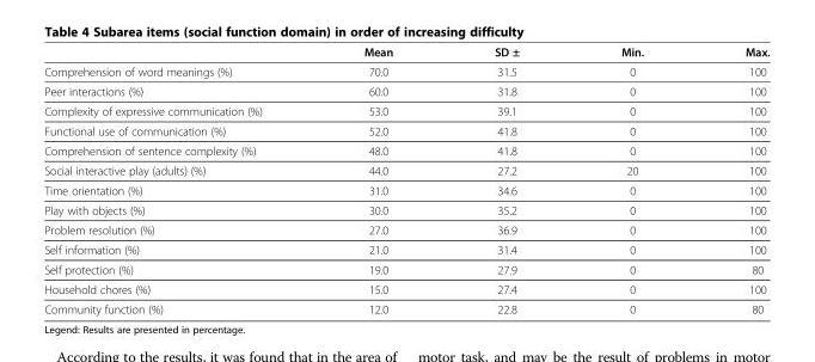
<table><thead><tr><td></td><td>Mean</td><td>SD ±</td><td>Min.</td><td>Max.</td></tr></thead><tbody><tr><td>Comprehension of word meanings (%)</td><td>70.0</td><td>31.5</td><td>0</td><td>100</td></tr><tr><td>Peer interactions (%)</td><td>60.0</td><td>31.8</td><td>0</td><td>100</td></tr><tr><td>Complexity of expressive communication (%)</td><td>53.0</td><td>39.1</td><td>0</td><td>100</td></tr><tr><td>Functional use of communication (%)</td><td>52.0</td><td>41.8</td><td>0</td><td>100</td></tr><tr><td>Comprehension of sentence complexity (%)</td><td>48.0</td><td>41.8</td><td>0</td><td>100</td></tr><tr><td>Social interactive play (adults) (%)</td><td>44.0</td><td>27.2</td><td>20</td><td>100</td></tr><tr><td>Time orientation (%)</td><td>31.0</td><td>34.6</td><td>0</td><td>100</td></tr><tr><td>Play with objects (%)</td><td>30.0</td><td>35.2</td><td>0</td><td>100</td></tr><tr><td>Problem resolution (%)</td><td>27.0</td><td>36.9</td><td>0</td><td>100</td></tr><tr><td>Self information (%)</td><td>21.0</td><td>31.4</td><td>0</td><td>100</td></tr><tr><td>Self protection (%)</td><td>19.0</td><td>27.9</td><td>0</td><td>80</td></tr><tr><td>Household chores (%)</td><td>15.0</td><td>27.4</td><td>0</td><td>100</td></tr><tr><td>Community function (%)</td><td>12.0</td><td>22.8</td><td>0</td><td>80</td></tr></tbody></table>